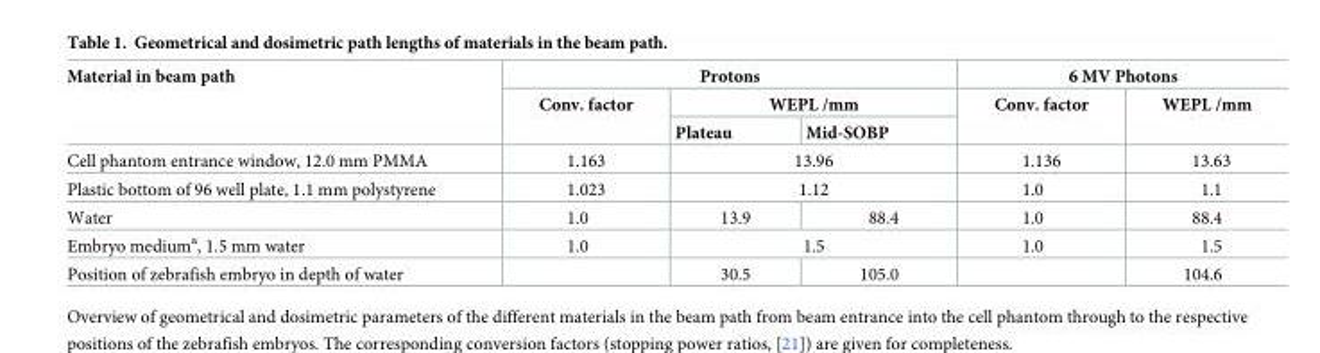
<table><thead><tr><td rowspan="3">Material in beam path</td><td colspan="3">Protons</td><td colspan="2">6 MV Photons</td></tr><tr><td rowspan="2">Conv. factor</td><td colspan="2">WEPL /mm</td><td rowspan="2">Conv. factor</td><td rowspan="2">WEPL /mm</td></tr><tr><td>Plateau</td><td>Mid-SOBP</td></tr></thead><tbody><tr><td>Cell phantom entrance window, 12.0 mm PMMA</td><td>1.163</td><td colspan="2">13.96</td><td>1.136</td><td>13.63</td></tr><tr><td>Plastic bottom of 96 well plate, 1.1 mm polystyrene</td><td>1.023</td><td colspan="2">1.12</td><td>1.0</td><td>1.1</td></tr><tr><td>Water</td><td>1.0</td><td>13.9</td><td>88.4</td><td>1.0</td><td>88.4</td></tr><tr><td>Embryo medium<sup>a</sup>, 1.5 mm water</td><td>1.0</td><td colspan="2">1.5</td><td>1.0</td><td>1.5</td></tr><tr><td>Position of zebrafish embryo in depth of water</td><td></td><td>30.5</td><td>105.0</td><td></td><td>104.6</td></tr></tbody></table>